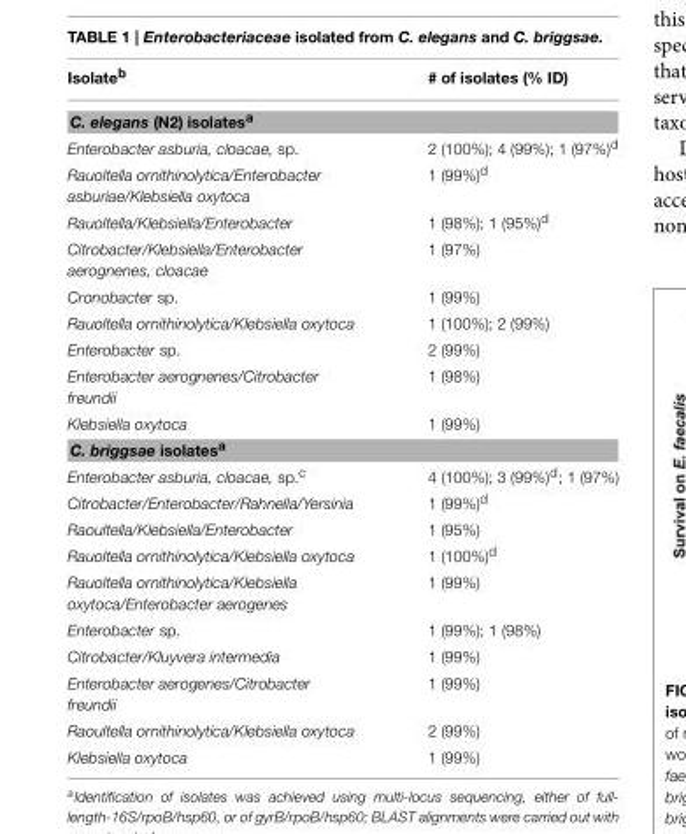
<table><thead><tr><td>Isolate<sup>b</sup></td><td># of isolates (% ID)</td></tr></thead><tbody><tr><td colspan="2">C. elegans (N2) isolates<sup>a</sup></td></tr><tr><td>Enterobacter asburia, cloacae, sp.</td><td>2 (100%); 4 (99%); 1 (97%)<sup>d</sup></td></tr><tr><td>Rauoltella ornithinolytica/Enterobacter asburiae/Klebsiella oxytoca</td><td>1 (99%)<sup>d</sup></td></tr><tr><td>Rauoltella/Klebsiella/Enterobacter</td><td>1 (98%); 1 (95%)<sup>d</sup></td></tr><tr><td>Citrobacter/Klebsiella/Enterobacter aerognenes, cloacae</td><td>1 (97%)</td></tr><tr><td>Cronobacter sp.</td><td>1 (99%)</td></tr><tr><td>Rauoltella ornithinolytica/Klebsiella oxytoca</td><td>1 (100%); 2 (99%)</td></tr><tr><td>Enterobacter sp.</td><td>2 (99%)</td></tr><tr><td>Enterobacter aerognenes/Citrobacter freundii</td><td>1 (98%)</td></tr><tr><td>Klebsiella oxytoca</td><td>1 (99%)</td></tr><tr><td colspan="2">C. briggsae isolates<sup>a</sup></td></tr><tr><td>Enterobacter asburia, cloacae, sp.<sup>c</sup></td><td>4 (100%); 3 (99%)<sup>d</sup>; 1 (97%)</td></tr><tr><td>Citrobacter/Enterobacter/Rahnella/Yersinia</td><td>1 (99%)<sup>d</sup></td></tr><tr><td>Raoultella/Klebsiella/Enterobacter</td><td>1 (95%)</td></tr><tr><td>Rauoltella ornithinolytica/Klebsiella oxytoca</td><td>1 (100%)<sup>d</sup></td></tr><tr><td>Rauoltella ornithinolytica/Klebsiella oxytoca/Enterobacter aerogenes</td><td>1 (99%)</td></tr><tr><td>Enterobacter sp.</td><td>1 (99%); 1 (98%)</td></tr><tr><td>Citrobacter/Kluyvera intermedia</td><td>1 (99%)</td></tr><tr><td>Enterobacter aerogenes/Citrobacter freundii</td><td>1 (99%)</td></tr><tr><td>Raoultella ornithinolytica/Klebsiella oxytoca</td><td>2 (99%)</td></tr><tr><td>Klebsiella oxytoca</td><td>1 (99%)</td></tr></tbody></table>